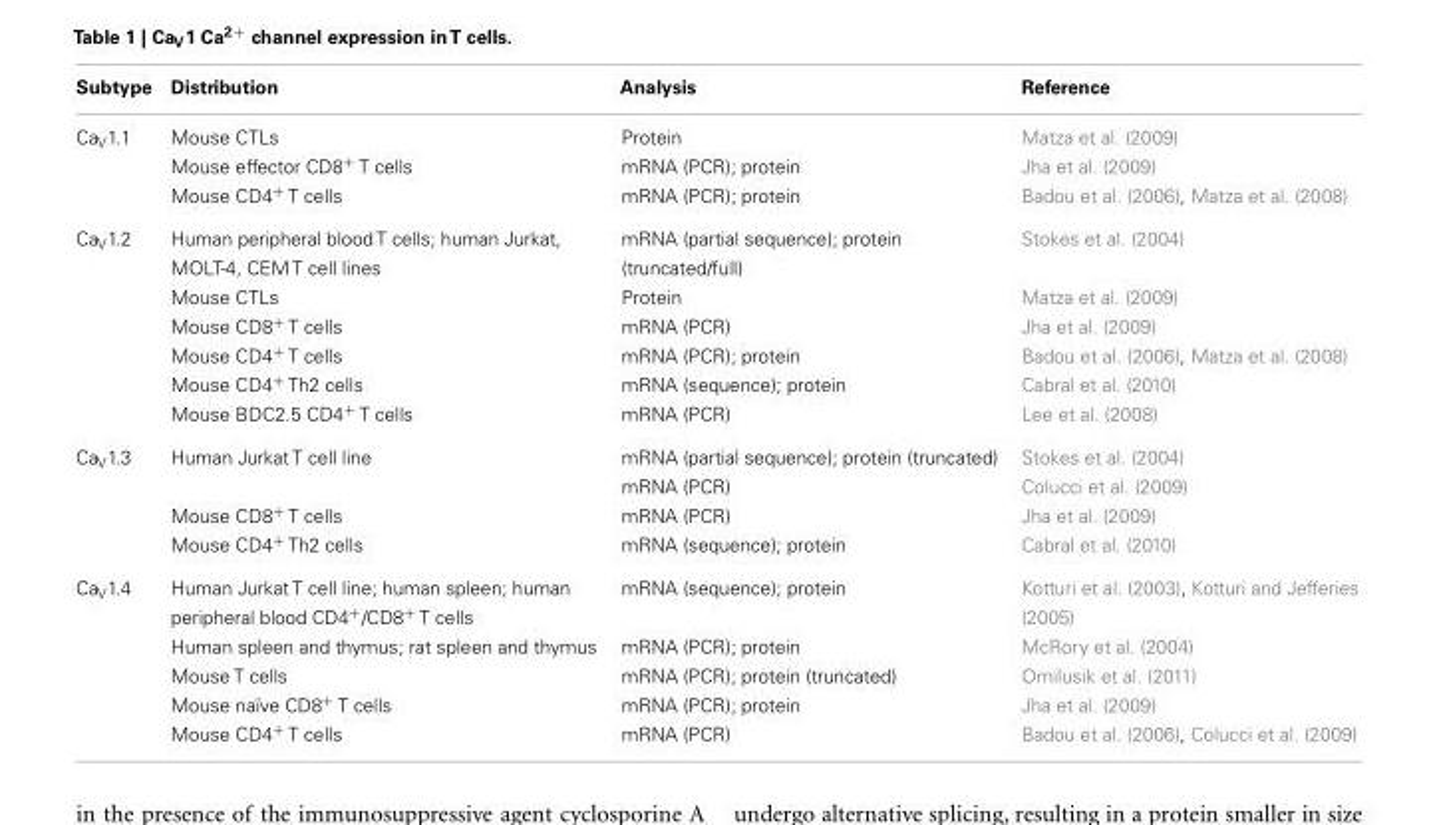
<table><thead><tr><td>Subtype</td><td>Distribution</td><td>Analysis</td><td>Reference</td></tr></thead><tbody><tr><td rowspan="3">Ca<sub>V</sub>1.1</td><td>Mouse CTLs</td><td>Protein</td><td>Matza et al. (2009)</td></tr><tr><td>Mouse effector CD8<sup>+</sup> T cells</td><td>mRNA (PCR); protein</td><td>Jha et al. (2009)</td></tr><tr><td>Mouse CD4<sup>+</sup> T cells</td><td>mRNA (PCR); protein</td><td>Badou et al. (2006), Matza et al. (2008)</td></tr><tr><td rowspan="6">Ca<sub>V</sub>1.2</td><td>Human peripheral blood T cells; human Jurkat, MOLT-4, CEM T cell lines</td><td>mRNA (partial sequence); protein (truncated/full)</td><td>Stokes et al. (2004)</td></tr><tr><td>Mouse CTLs</td><td>Protein</td><td>Matza et al. (2009)</td></tr><tr><td>Mouse CD8<sup>+</sup> T cells</td><td>mRNA (PCR)</td><td>Jha et al. (2009)</td></tr><tr><td>Mouse CD4<sup>+</sup> T cells</td><td>mRNA (PCR); protein</td><td>Badou et al. (2006), Matza et al. (2008)</td></tr><tr><td>Mouse CD4<sup>+</sup> Th2 cells</td><td>mRNA (sequence); protein</td><td>Cabral et al. (2010)</td></tr><tr><td>Mouse BDC2.5 CD4<sup>+</sup> T cells</td><td>mRNA (PCR)</td><td>Lee et al. (2008)</td></tr><tr><td rowspan="4">Ca<sub>V</sub>1.3</td><td>Human Jurkat T cell line</td><td>mRNA (partial sequence); protein (truncated)</td><td>Stokes et al. (2004)</td></tr><tr><td></td><td>mRNA (PCR)</td><td>Colucci et al. (2009)</td></tr><tr><td>Mouse CD8<sup>+</sup> T cells</td><td>mRNA (PCR)</td><td>Jha et al. (2009)</td></tr><tr><td>Mouse CD4<sup>+</sup> Th2 cells</td><td>mRNA (sequence); protein</td><td>Cabral et al. (2010)</td></tr><tr><td rowspan="5">Ca<sub>V</sub>1.4</td><td>Human Jurkat T cell line; human spleen; human peripheral blood CD4<sup>+</sup>/CD8<sup>+</sup> T cells</td><td>mRNA (sequence); protein</td><td>Kotturi et al. (2003), Kotturi and Jefferies (2005)</td></tr><tr><td>Human spleen and thymus; rat spleen and thymus</td><td>mRNA (PCR); protein</td><td>McRory et al. (2004)</td></tr><tr><td>Mouse T cells</td><td>mRNA (PCR); protein (truncated)</td><td>Omilusik et al. (2011)</td></tr><tr><td>Mouse naïve CD8<sup>+</sup> T cells</td><td>mRNA (PCR); protein</td><td>Jha et al. (2009)</td></tr><tr><td>Mouse CD4<sup>+</sup> T cells</td><td>mRNA (PCR)</td><td>Badou et al. (2006), Colucci et al. (2009)</td></tr></tbody></table>